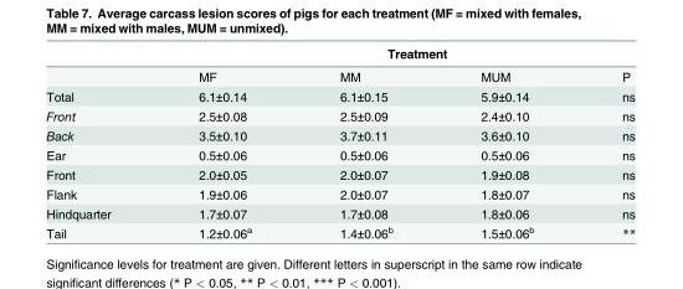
<table><thead><tr><td rowspan="2"></td><td colspan="4">Treatment</td></tr><tr><td>MF</td><td>MM</td><td>MUM</td><td>P</td></tr></thead><tbody><tr><td>Total</td><td>6.1±0.14</td><td>6.1±0.15</td><td>5.9±0.14</td><td>ns</td></tr><tr><td>Front</td><td>2.5±0.08</td><td>2.5±0.09</td><td>2.4±0.10</td><td>ns</td></tr><tr><td>Back</td><td>3.5±0.10</td><td>3.7±0.11</td><td>3.6±0.10</td><td>ns</td></tr><tr><td>Ear</td><td>0.5±0.06</td><td>0.5±0.06</td><td>0.5±0.06</td><td>ns</td></tr><tr><td>Front</td><td>2.0±0.05</td><td>2.0±0.07</td><td>1.9±0.08</td><td>ns</td></tr><tr><td>Flank</td><td>1.9±0.06</td><td>2.0±0.07</td><td>1.8±0.07</td><td>ns</td></tr><tr><td>Hindquarter</td><td>1.7±0.07</td><td>1.7±0.08</td><td>1.8±0.06</td><td>ns</td></tr><tr><td>Tail</td><td>1.2±0.06<sup>a</sup></td><td>1.4±0.06<sup>b</sup></td><td>1.5±0.06<sup>b</sup></td><td>**</td></tr></tbody></table>